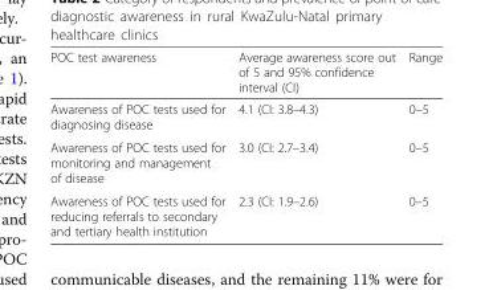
<table><thead><tr><td>POC test awareness</td><td>Average awareness score out of 5 and 95% confidence interval (CI)</td><td>Range</td></tr></thead><tbody><tr><td>Awareness of POC tests used for diagnosing disease</td><td>4.1 (CI: 3.8–4.3)</td><td>0–5</td></tr><tr><td>Awareness of POC tests used for monitoring and management of disease</td><td>3.0 (CI: 2.7–3.4)</td><td>0–5</td></tr><tr><td>Awareness of POC tests used for reducing referrals to secondary and tertiary health institution</td><td>2.3 (CI: 1.9–2.6)</td><td>0–5</td></tr></tbody></table>